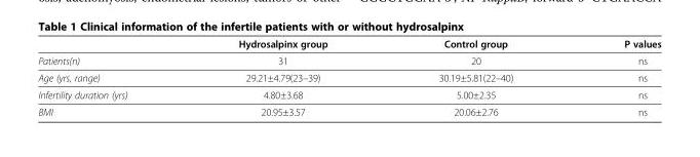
<table><thead><tr><td></td><td>Hydrosalpinx group</td><td>Control group</td><td>P values</td></tr></thead><tbody><tr><td>Patients(n)</td><td>31</td><td>20</td><td>ns</td></tr><tr><td>Age (yrs, range)</td><td>29.21±4.79(23–39)</td><td>30.19±5.81(22–40)</td><td>ns</td></tr><tr><td>Infertility duration (yrs)</td><td>4.80±3.68</td><td>5.00±2.35</td><td>ns</td></tr><tr><td>BMI</td><td>20.95±3.57</td><td>20.06±2.76</td><td>ns</td></tr></tbody></table>